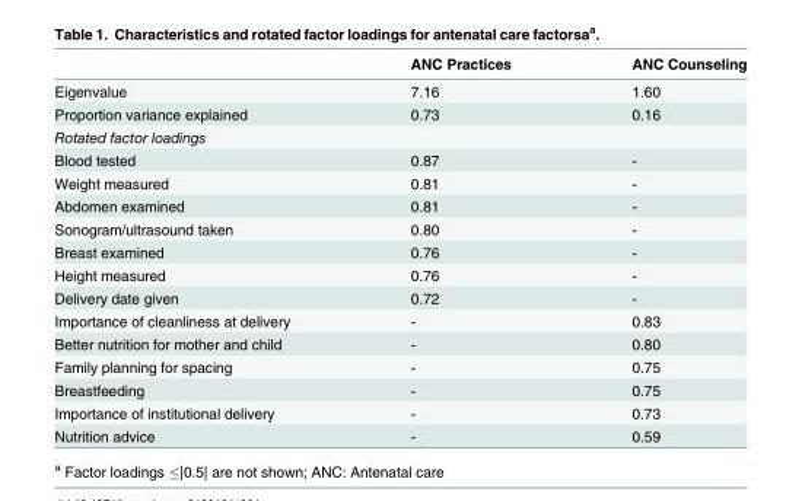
<table><thead><tr><td></td><td>ANC Practices</td><td>ANC Counseling</td></tr></thead><tbody><tr><td>Eigenvalue</td><td>7.16</td><td>1.60</td></tr><tr><td>Proportion variance explained</td><td>0.73</td><td>0.16</td></tr><tr><td colspan="3">Rotated factor loadings</td></tr><tr><td>Blood tested</td><td>0.87</td><td>-</td></tr><tr><td>Weight measured</td><td>0.81</td><td>-</td></tr><tr><td>Abdomen examined</td><td>0.81</td><td>-</td></tr><tr><td>Sonogram/ultrasound taken</td><td>0.80</td><td>-</td></tr><tr><td>Breast examined</td><td>0.76</td><td>-</td></tr><tr><td>Height measured</td><td>0.76</td><td>-</td></tr><tr><td>Delivery date given</td><td>0.72</td><td>-</td></tr><tr><td>Importance of cleanliness at delivery</td><td>-</td><td>0.83</td></tr><tr><td>Better nutrition for mother and child</td><td>-</td><td>0.80</td></tr><tr><td>Family planning for spacing</td><td>-</td><td>0.75</td></tr><tr><td>Breastfeeding</td><td>-</td><td>0.75</td></tr><tr><td>Importance of institutional delivery</td><td>-</td><td>0.73</td></tr><tr><td>Nutrition advice</td><td>-</td><td>0.59</td></tr></tbody></table>